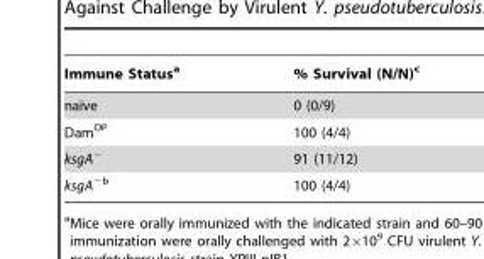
<table><thead><tr><td>Immune Status<sup>a</sup></td><td>% Survival (N/N)<sup>c</sup></td></tr></thead><tbody><tr><td>naı¨ve</td><td>0 (0/9)</td></tr><tr><td>Dam<sup>OP</sup></td><td>100 (4/4)</td></tr><tr><td>ksgA<sup>−</sup></td><td>91 (11/12)</td></tr><tr><td>ksgA<sup>−</sup>b</td><td>100 (4/4)</td></tr></tbody></table>